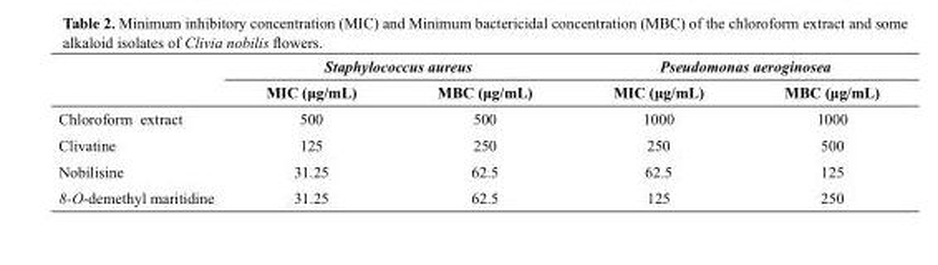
<table><thead><tr><td rowspan="2"></td><td colspan="2">Staphylococcus aureus</td><td colspan="2">Pseudomonas aeroginosea</td></tr><tr><td>MIC (μg/mL)</td><td>MBC (μg/mL)</td><td>MIC (μg/mL)</td><td>MBC (μg/mL)</td></tr></thead><tbody><tr><td>Chloroform extract</td><td>500</td><td>500</td><td>1000</td><td>1000</td></tr><tr><td>Clivatine</td><td>125</td><td>250</td><td>250</td><td>500</td></tr><tr><td>Nobilisine</td><td>31.25</td><td>62.5</td><td>62.5</td><td>125</td></tr><tr><td>8-O-demethyl maritidine</td><td>31.25</td><td>62.5</td><td>125</td><td>250</td></tr></tbody></table>